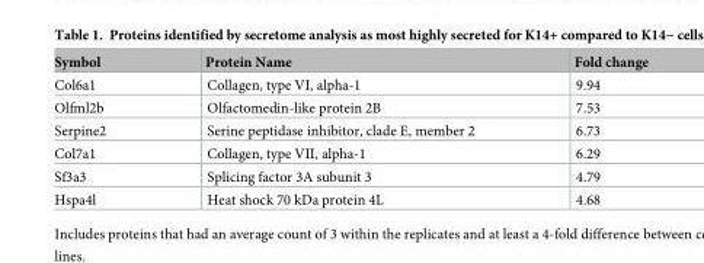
<table><thead><tr><td>Symbol</td><td>Protein Name</td><td>Fold change</td></tr></thead><tbody><tr><td>Col6a1</td><td>Collagen, type VI, alpha-1</td><td>9.94</td></tr><tr><td>Olfml2b</td><td>Olfactomedin-like protein 2B</td><td>7.53</td></tr><tr><td>Serpine2</td><td>Serine peptidase inhibitor, clade E, member 2</td><td>6.73</td></tr><tr><td>Col7a1</td><td>Collagen, type VII, alpha-1</td><td>6.29</td></tr><tr><td>Sf3a3</td><td>Splicing factor 3A subunit 3</td><td>4.79</td></tr><tr><td>Hspa4l</td><td>Heat shock 70 kDa protein 4L</td><td>4.68</td></tr></tbody></table>